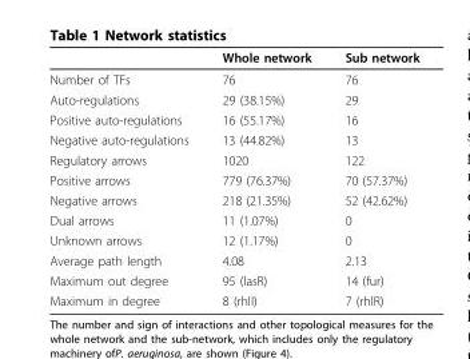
<table><thead><tr><td></td><td>Whole network</td><td>Sub network</td></tr></thead><tbody><tr><td>Number of TFs</td><td>76</td><td>76</td></tr><tr><td>Auto-regulations</td><td>29 (38.15%)</td><td>29</td></tr><tr><td>Positive auto-regulations</td><td>16 (55.17%)</td><td>16</td></tr><tr><td>Negative auto-regulations</td><td>13 (44.82%)</td><td>13</td></tr><tr><td>Regulatory arrows</td><td>1020</td><td>122</td></tr><tr><td>Positive arrows</td><td>779 (76.37%)</td><td>70 (57.37%)</td></tr><tr><td>Negative arrows</td><td>218 (21.35%)</td><td>52 (42.62%)</td></tr><tr><td>Dual arrows</td><td>11 (1.07%)</td><td>0</td></tr><tr><td>Unknown arrows</td><td>12 (1.17%)</td><td>0</td></tr><tr><td>Average path length</td><td>4.08</td><td>2.13</td></tr><tr><td>Maximum out degree</td><td>95 (lasR)</td><td>14 (fur)</td></tr><tr><td>Maximum in degree</td><td>8 (rhlI)</td><td>7 (rhlR)</td></tr></tbody></table>